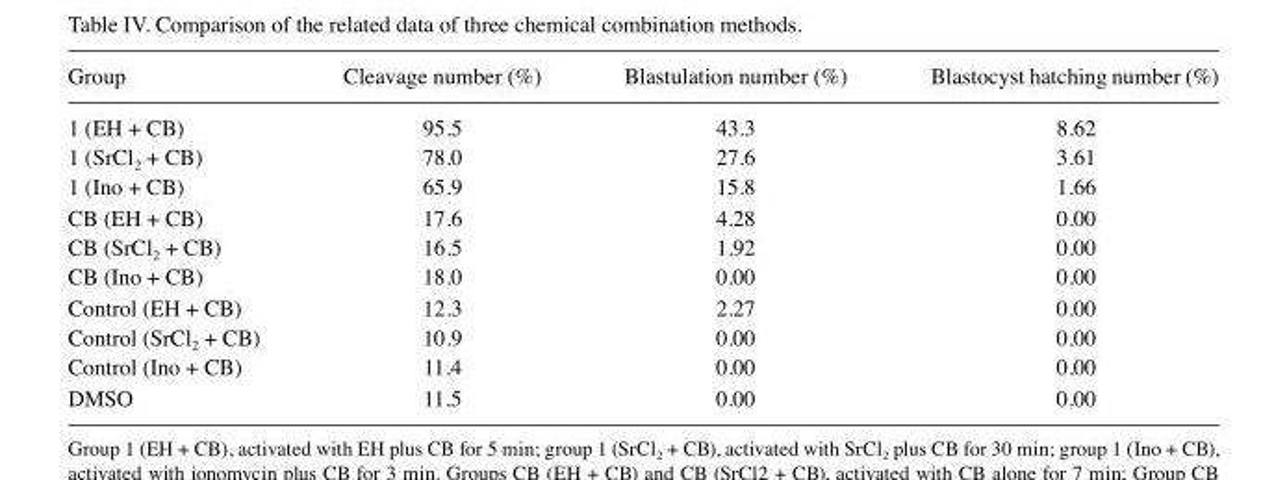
<table><thead><tr><td>Group</td><td>Cleavage number (%)</td><td>Blastulation number (%)</td><td>Blastocyst hatching number (%)</td></tr></thead><tbody><tr><td>1 (EH + CB)</td><td>95.5</td><td>43.3</td><td>8.62</td></tr><tr><td>1 (SrCl<sub>2</sub> + CB)</td><td>78.0</td><td>27.6</td><td>3.61</td></tr><tr><td>1 (Ino + CB)</td><td>65.9</td><td>15.8</td><td>1.66</td></tr><tr><td>CB (EH + CB)</td><td>17.6</td><td>4.28</td><td>0.00</td></tr><tr><td>CB (SrCl<sub>2</sub> + CB)</td><td>16.5</td><td>1.92</td><td>0.00</td></tr><tr><td>CB (Ino + CB)</td><td>18.0</td><td>0.00</td><td>0.00</td></tr><tr><td>Control (EH + CB)</td><td>12.3</td><td>2.27</td><td>0.00</td></tr><tr><td>Control (SrCl<sub>2</sub> + CB)</td><td>10.9</td><td>0.00</td><td>0.00</td></tr><tr><td>Control (Ino + CB)</td><td>11.4</td><td>0.00</td><td>0.00</td></tr><tr><td>DMSO</td><td>11.5</td><td>0.00</td><td>0.00</td></tr></tbody></table>